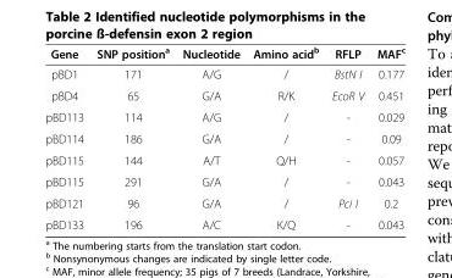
<table><thead><tr><td>Gene</td><td>SNP position<sup>a</sup></td><td>Nucleotide</td><td>Amino acid<sup>b</sup></td><td>RFLP</td><td>MAF<sup>c</sup></td></tr></thead><tbody><tr><td>pBD1</td><td>171</td><td>A/G</td><td>/</td><td>BstN I</td><td>0.177</td></tr><tr><td>pBD4</td><td>65</td><td>G/A</td><td>R/K</td><td>EcoR V</td><td>0.451</td></tr><tr><td>pBD113</td><td>114</td><td>A/G</td><td>/</td><td>-</td><td>0.029</td></tr><tr><td>pBD114</td><td>186</td><td>G/A</td><td>/</td><td>-</td><td>0.09</td></tr><tr><td>pBD115</td><td>144</td><td>A/T</td><td>Q/H</td><td>-</td><td>0.057</td></tr><tr><td>pBD115</td><td>291</td><td>G/A</td><td>/</td><td>-</td><td>0.043</td></tr><tr><td>pBD121</td><td>96</td><td>G/A</td><td>/</td><td>Pci I</td><td>0.2</td></tr><tr><td>pBD133</td><td>196</td><td>A/C</td><td>K/Q</td><td>-</td><td>0.043</td></tr></tbody></table>